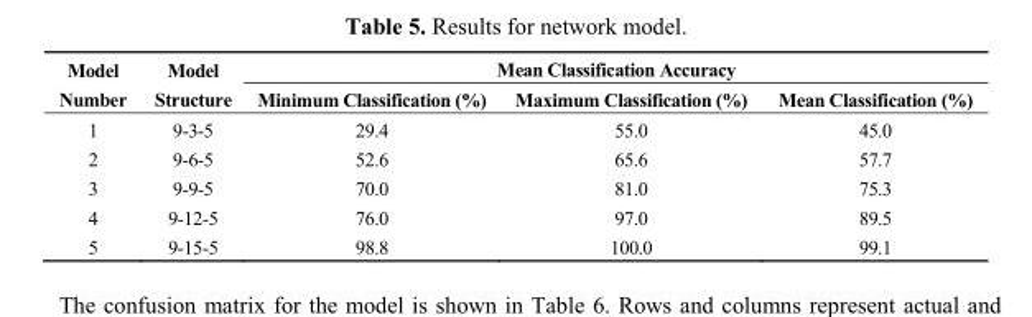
<table><thead><tr><td rowspan="2">Model Number</td><td rowspan="2">Model Structure</td><td colspan="3">Mean Classification Accuracy</td></tr><tr><td>Minimum Classification (%)</td><td>Maximum Classification (%)</td><td>Mean Classification (%)</td></tr></thead><tbody><tr><td>1</td><td>9-3-5</td><td>29.4</td><td>55.0</td><td>45.0</td></tr><tr><td>2</td><td>9-6-5</td><td>52.6</td><td>65.6</td><td>57.7</td></tr><tr><td>3</td><td>9-9-5</td><td>70.0</td><td>81.0</td><td>75.3</td></tr><tr><td>4</td><td>9-12-5</td><td>76.0</td><td>97.0</td><td>89.5</td></tr><tr><td>5</td><td>9-15-5</td><td>98.8</td><td>100.0</td><td>99.1</td></tr></tbody></table>